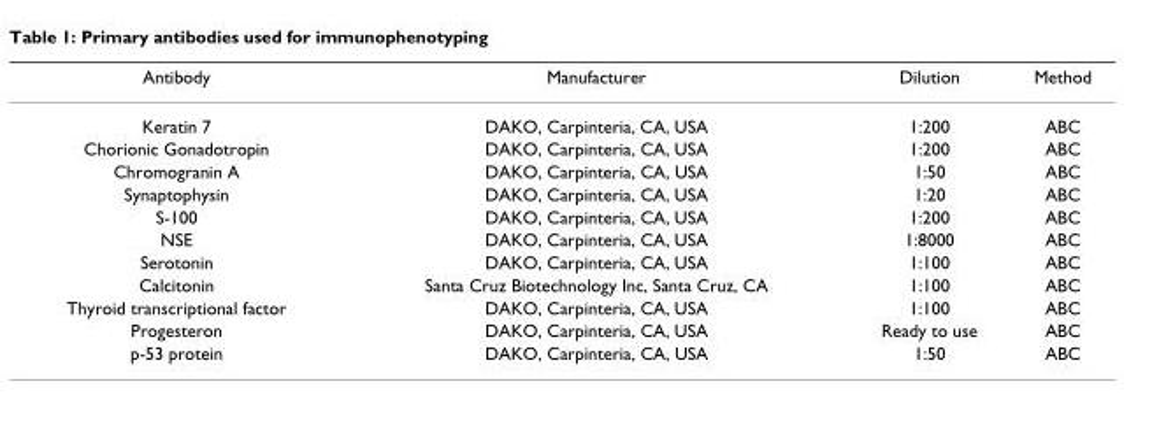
<table><thead><tr><td>Antibody</td><td>Manufacturer</td><td>Dilution</td><td>Method</td></tr></thead><tbody><tr><td>Keratin 7</td><td>DAKO, Carpinteria, CA, USA</td><td>1:200</td><td>ABC</td></tr><tr><td>Chorionic Gonadotropin</td><td>DAKO, Carpinteria, CA, USA</td><td>1:200</td><td>ABC</td></tr><tr><td>Chromogranin A</td><td>DAKO, Carpinteria, CA, USA</td><td>1:50</td><td>ABC</td></tr><tr><td>Synaptophysin</td><td>DAKO, Carpinteria, CA, USA</td><td>1:20</td><td>ABC</td></tr><tr><td>S-100</td><td>DAKO, Carpinteria, CA, USA</td><td>1:200</td><td>ABC</td></tr><tr><td>NSE</td><td>DAKO, Carpinteria, CA, USA</td><td>1:8000</td><td>ABC</td></tr><tr><td>Serotonin</td><td>DAKO, Carpinteria, CA, USA</td><td>1:100</td><td>ABC</td></tr><tr><td>Calcitonin</td><td>Santa Cruz Biotechnology Inc, Santa Cruz, CA</td><td>1:100</td><td>ABC</td></tr><tr><td>Thyroid transcriptional factor</td><td>DAKO, Carpinteria, CA, USA</td><td>1:100</td><td>ABC</td></tr><tr><td>Progesteron</td><td>DAKO, Carpinteria, CA, USA</td><td>Ready to use</td><td>ABC</td></tr><tr><td>p-53 protein</td><td>DAKO, Carpinteria, CA, USA</td><td>1:50</td><td>ABC</td></tr></tbody></table>